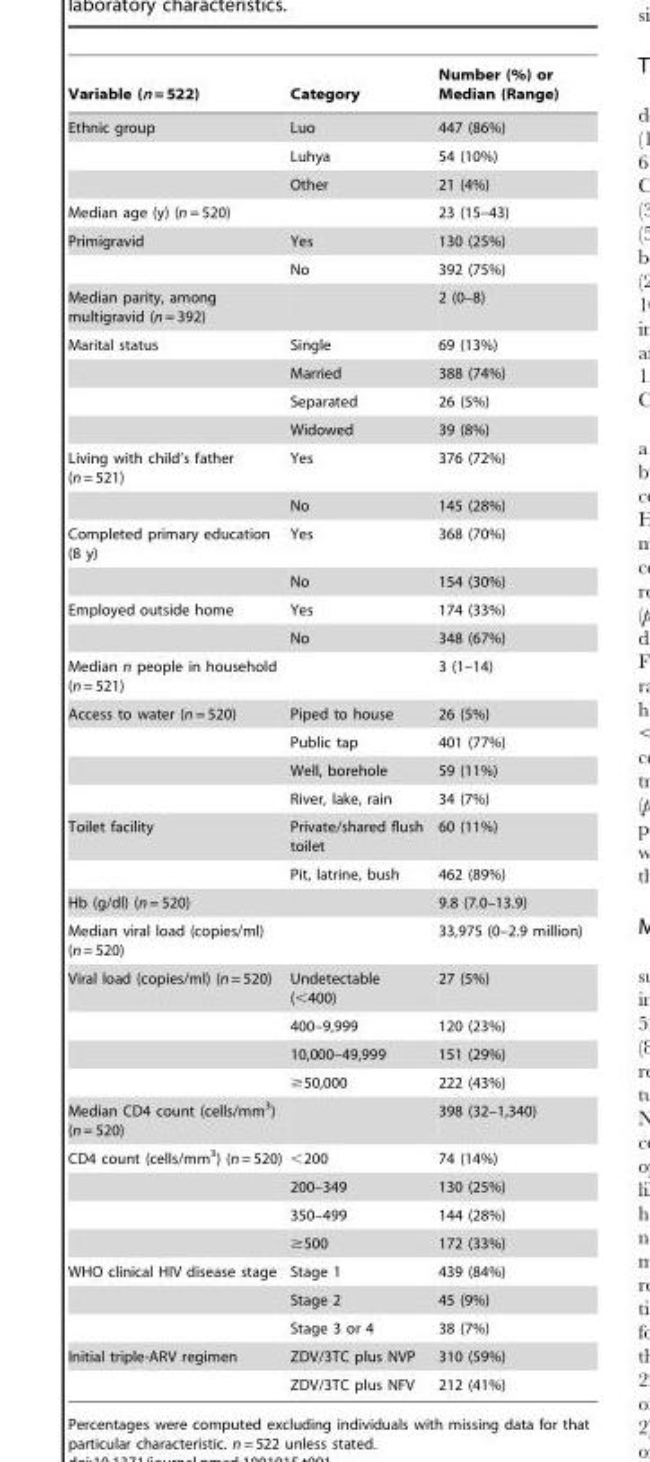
<table><thead><tr><td>Variable (n = 522)</td><td>Category</td><td>Number (%) or Median (Range)</td></tr></thead><tbody><tr><td rowspan="3">Ethnic group</td><td>Luo</td><td>447 (86%)</td></tr><tr><td>Luhya</td><td>54 (10%)</td></tr><tr><td>Other</td><td>21 (4%)</td></tr><tr><td>Median age (y) (n = 520)</td><td></td><td>23 (15–43)</td></tr><tr><td rowspan="2">Primigravid</td><td>Yes</td><td>130 (25%)</td></tr><tr><td>No</td><td>392 (75%)</td></tr><tr><td>Median parity, among multigravid (n = 392)</td><td></td><td>2 (0–8)</td></tr><tr><td rowspan="4">Marital status</td><td>Single</td><td>69 (13%)</td></tr><tr><td>Married</td><td>388 (74%)</td></tr><tr><td>Separated</td><td>26 (5%)</td></tr><tr><td>Widowed</td><td>39 (8%)</td></tr><tr><td rowspan="2">Living with child’s father (n = 521)</td><td>Yes</td><td>376 (72%)</td></tr><tr><td>No</td><td>145 (28%)</td></tr><tr><td rowspan="2">Completed primary education (8 y)</td><td>Yes</td><td>368 (70%)</td></tr><tr><td>No</td><td>154 (30%)</td></tr><tr><td rowspan="2">Employed outside home</td><td>Yes</td><td>174 (33%)</td></tr><tr><td>No</td><td>348 (67%)</td></tr><tr><td>Median n people in household (n = 521)</td><td></td><td>3 (1–14)</td></tr><tr><td rowspan="4">Access to water (n = 520)</td><td>Piped to house</td><td>26 (5%)</td></tr><tr><td>Public tap</td><td>401 (77%)</td></tr><tr><td>Well, borehole</td><td>59 (11%)</td></tr><tr><td>River, lake, rain</td><td>34 (7%)</td></tr><tr><td rowspan="2">Toilet facility</td><td>Private/shared flush toilet</td><td>60 (11%)</td></tr><tr><td>Pit, latrine, bush</td><td>462 (89%)</td></tr><tr><td>Hb (g/dl) (n = 520)</td><td></td><td>9.8 (7.0–13.9)</td></tr><tr><td>Median viral load (copies/ml) (n = 520)</td><td></td><td>33,975 (0–2.9 million)</td></tr><tr><td rowspan="4">Viral load (copies/ml) (n = 520)</td><td>Undetectable (&lt;400)</td><td>27 (5%)</td></tr><tr><td>400–9,999</td><td>120 (23%)</td></tr><tr><td>10,000–49,999</td><td>151 (29%)</td></tr><tr><td>≥50,000</td><td>222 (43%)</td></tr><tr><td>Median CD4 count (cells/mm<sup>3</sup>) (n = 520)</td><td></td><td>398 (32–1,340)</td></tr><tr><td rowspan="4">CD4 count (cells/mm<sup>3</sup>) (n = 520)</td><td>&lt;200</td><td>74 (14%)</td></tr><tr><td>200–349</td><td>130 (25%)</td></tr><tr><td>350–499</td><td>144 (28%)</td></tr><tr><td>≥500</td><td>172 (33%)</td></tr><tr><td rowspan="3">WHO clinical HIV disease stage</td><td>Stage 1</td><td>439 (84%)</td></tr><tr><td>Stage 2</td><td>45 (9%)</td></tr><tr><td>Stage 3 or 4</td><td>38 (7%)</td></tr><tr><td rowspan="2">Initial triple-ARV regimen</td><td>ZDV/3TC plus NVP</td><td>310 (59%)</td></tr><tr><td>ZDV/3TC plus NFV</td><td>212 (41%)</td></tr></tbody></table>